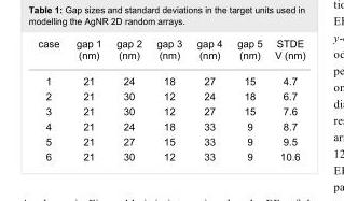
<table><tbody><tr><td>case</td><td>gap 1 (nm)</td><td>gap 2 (nm)</td><td>gap 3 (nm)</td><td>gap 4 (nm)</td><td>gap 5 (nm)</td><td>STDE V (nm)</td></tr><tr><td>1</td><td>21</td><td>24</td><td>18</td><td>27</td><td>15</td><td>4.7</td></tr><tr><td>2</td><td>21</td><td>30</td><td>12</td><td>24</td><td>18</td><td>6.7</td></tr><tr><td>3</td><td>21</td><td>30</td><td>12</td><td>27</td><td>15</td><td>7.6</td></tr><tr><td>4</td><td>21</td><td>24</td><td>18</td><td>33</td><td>9</td><td>8.7</td></tr><tr><td>5</td><td>21</td><td>27</td><td>15</td><td>33</td><td>9</td><td>9.5</td></tr><tr><td>6</td><td>21</td><td>30</td><td>12</td><td>33</td><td>9</td><td>10.6</td></tr></tbody></table>